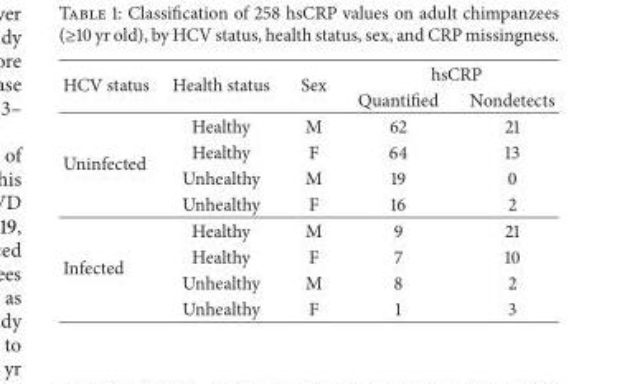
<table><thead><tr><td rowspan="2">HCV status</td><td rowspan="2">Health status</td><td rowspan="2">Sex</td><td colspan="2">hsCRP</td></tr><tr><td>Quantified</td><td>Nondetects</td></tr></thead><tbody><tr><td></td><td>Healthy</td><td>M</td><td>62</td><td>21</td></tr><tr><td rowspan="4">Uninfected</td><td>Healthy</td><td>F</td><td>64</td><td>13</td></tr><tr><td>Unhealthy</td><td>M</td><td>19</td><td>0</td></tr><tr><td>Unhealthy</td><td>F</td><td>16</td><td>2</td></tr><tr><td>Healthy</td><td>M</td><td>9</td><td>21</td></tr><tr><td rowspan="3">Infected</td><td>Healthy</td><td>F</td><td>7</td><td>10</td></tr><tr><td>Unhealthy</td><td>M</td><td>8</td><td>2</td></tr><tr><td>Unhealthy</td><td>F</td><td>1</td><td>3</td></tr></tbody></table>